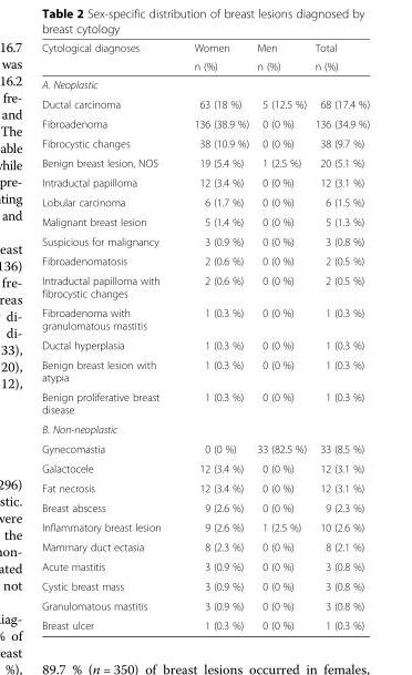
<table><thead><tr><td rowspan="2">Cytological diagnoses</td><td rowspan="2">Women n (%)</td><td rowspan="2">Men n (%)</td><td rowspan="2">Total n (%)</td></tr><tr></tr></thead><tbody><tr><td colspan="4">A. Neoplastic</td></tr><tr><td>Ductal carcinoma</td><td>63 (18 %)</td><td>5 (12.5 %)</td><td>68 (17.4 %)</td></tr><tr><td>Fibroadenoma</td><td>136 (38.9 %)</td><td>0 (0 %)</td><td>136 (34.9 %)</td></tr><tr><td>Fibrocystic changes</td><td>38 (10.9 %)</td><td>0 (0 %)</td><td>38 (9.7 %)</td></tr><tr><td>Benign breast lesion, NOS</td><td>19 (5.4 %)</td><td>1 (2.5 %)</td><td>20 (5.1 %)</td></tr><tr><td>Intraductal papilloma</td><td>12 (3.4 %)</td><td>0 (0 %)</td><td>12 (3.1 %)</td></tr><tr><td>Lobular carcinoma</td><td>6 (1.7 %)</td><td>0 (0 %)</td><td>6 (1.5 %)</td></tr><tr><td>Malignant breast lesion</td><td>5 (1.4 %)</td><td>0 (0 %)</td><td>5 (1.3 %)</td></tr><tr><td>Suspicious for malignancy</td><td>3 (0.9 %)</td><td>0 (0 %)</td><td>3 (0.8 %)</td></tr><tr><td>Fibroadenomatosis</td><td>2 (0.6 %)</td><td>0 (0 %)</td><td>2 (0.5 %)</td></tr><tr><td>Intraductal papilloma with fibrocystic changes</td><td>2 (0.6 %)</td><td>0 (0 %)</td><td>2 (0.5 %)</td></tr><tr><td>Fibroadenoma with granulomatous mastitis</td><td>1 (0.3 %)</td><td>0 (0 %)</td><td>1 (0.3 %)</td></tr><tr><td>Ductal hyperplasia</td><td>1 (0.3 %)</td><td>0 (0 %)</td><td>1 (0.3 %)</td></tr><tr><td>Benign breast lesion with atypia</td><td>1 (0.3 %)</td><td>0 (0 %)</td><td>1 (0.3 %)</td></tr><tr><td>Benign proliferative breast disease</td><td>1 (0.3 %)</td><td>0 (0 %)</td><td>1 (0.3 %)</td></tr><tr><td colspan="4">B. Non-neoplastic</td></tr><tr><td>Gynecomastia</td><td>0 (0 %)</td><td>33 (82.5 %)</td><td>33 (8.5 %)</td></tr><tr><td>Galactocele</td><td>12 (3.4 %)</td><td>0 (0 %)</td><td>12 (3.1 %)</td></tr><tr><td>Fat necrosis</td><td>12 (3.4 %)</td><td>0 (0 %)</td><td>12 (3.1 %)</td></tr><tr><td>Breast abscess</td><td>9 (2.6 %)</td><td>0 (0 %)</td><td>9 (2.3 %)</td></tr><tr><td>Inflammatory breast lesion</td><td>9 (2.6 %)</td><td>1 (2.5 %)</td><td>10 (2.6 %)</td></tr><tr><td>Mammary duct ectasia</td><td>8 (2.3 %)</td><td>0 (0 %)</td><td>8 (2.1 %)</td></tr><tr><td>Acute mastitis</td><td>3 (0.9 %)</td><td>0 (0 %)</td><td>3 (0.8 %)</td></tr><tr><td>Cystic breast mass</td><td>3 (0.9 %)</td><td>0 (0 %)</td><td>3 (0.8 %)</td></tr><tr><td>Granulomatous mastitis</td><td>3 (0.9 %)</td><td>0 (0 %)</td><td>3 (0.8 %)</td></tr><tr><td>Breast ulcer</td><td>1 (0.3 %)</td><td>0 (0 %)</td><td>1 (0.3 %)</td></tr></tbody></table>